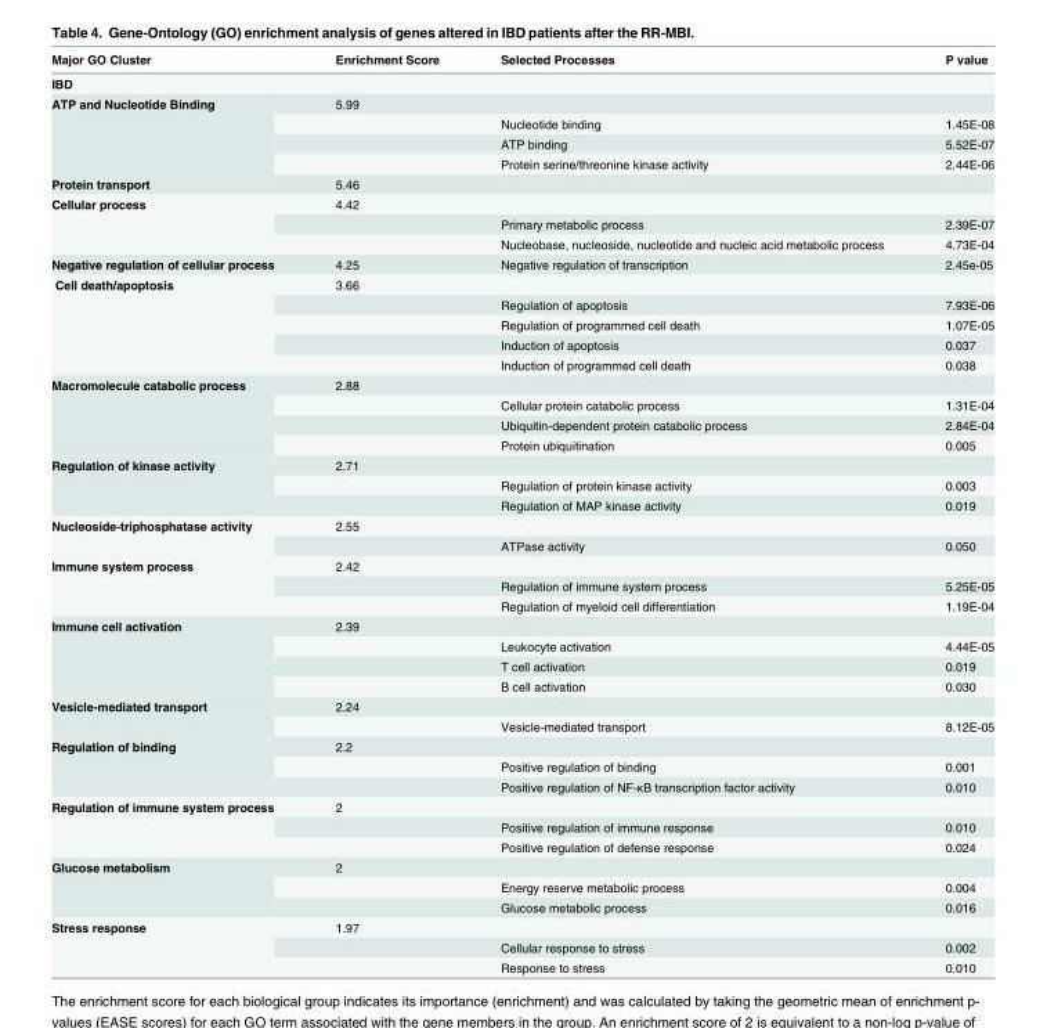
<table><thead><tr><td>Major GO Cluster</td><td>Enrichment Score</td><td>Selected Processes</td><td>P value</td></tr></thead><tbody><tr><td colspan="4">IBD</td></tr><tr><td rowspan="4">ATP and Nucleotide Binding</td><td>5.99</td><td></td><td></td></tr><tr><td></td><td>Nucleotide binding</td><td>1.45E-08</td></tr><tr><td></td><td>ATP binding</td><td>5.52E-07</td></tr><tr><td></td><td>Protein serine/threonine kinase activity</td><td>2.44E-06</td></tr><tr><td>Protein transport</td><td>5.46</td><td></td><td></td></tr><tr><td rowspan="3">Cellular process</td><td>4.42</td><td></td><td></td></tr><tr><td></td><td>Primary metabolic process</td><td>2.39E-07</td></tr><tr><td></td><td>Nucleobase, nucleoside, nucleotide and nucleic acid metabolic process</td><td>4.73E-04</td></tr><tr><td>Negative regulation of cellular process</td><td>4.25</td><td>Negative regulation of transcription</td><td>2.45e-05</td></tr><tr><td rowspan="5">Cell death/apoptosis</td><td>3.66</td><td></td><td></td></tr><tr><td></td><td>Regulation of apoptosis</td><td>7.93E-06</td></tr><tr><td></td><td>Regulation of programmed cell death</td><td>1.07E-05</td></tr><tr><td></td><td>Induction of apoptosis</td><td>0.037</td></tr><tr><td></td><td>Induction of programmed cell death</td><td>0.038</td></tr><tr><td rowspan="4">Macromolecule catabolic process</td><td>2.88</td><td></td><td></td></tr><tr><td></td><td>Cellular protein catabolic process</td><td>1.31E-04</td></tr><tr><td></td><td>Ubiquitin-dependent protein catabolic process</td><td>2.84E-04</td></tr><tr><td></td><td>Protein ubiquitination</td><td>0.005</td></tr><tr><td rowspan="3">Regulation of kinase activity</td><td>2.71</td><td></td><td></td></tr><tr><td></td><td>Regulation of protein kinase activity</td><td>0.003</td></tr><tr><td></td><td>Regulation of MAP kinase activity</td><td>0.019</td></tr><tr><td rowspan="2">Nucleoside-triphosphatase activity</td><td>2.55</td><td></td><td></td></tr><tr><td></td><td>ATPase activity</td><td>0.050</td></tr><tr><td rowspan="3">Immune system process</td><td>2.42</td><td></td><td></td></tr><tr><td></td><td>Regulation of immune system process</td><td>5.25E-05</td></tr><tr><td></td><td>Regulation of myeloid cell differentiation</td><td>1.19E-04</td></tr><tr><td rowspan="4">Immune cell activation</td><td>2.39</td><td></td><td></td></tr><tr><td></td><td>Leukocyte activation</td><td>4.44E-05</td></tr><tr><td></td><td>T cell activation</td><td>0.019</td></tr><tr><td></td><td>B cell activation</td><td>0.030</td></tr><tr><td rowspan="2">Vesicle-mediated transport</td><td>2.24</td><td></td><td></td></tr><tr><td></td><td>Vesicle-mediated transport</td><td>8.12E-05</td></tr><tr><td rowspan="3">Regulation of binding</td><td>2.2</td><td></td><td></td></tr><tr><td></td><td>Positive regulation of binding</td><td>0.001</td></tr><tr><td></td><td>Positive regulation of NF-κB transcription factor activity</td><td>0.010</td></tr><tr><td rowspan="3">Regulation of immune system process</td><td>2</td><td></td><td></td></tr><tr><td></td><td>Positive regulation of immune response</td><td>0.010</td></tr><tr><td></td><td>Positive regulation of defense response</td><td>0.024</td></tr><tr><td rowspan="3">Glucose metabolism</td><td>2</td><td></td><td></td></tr><tr><td></td><td>Energy reserve metabolic process</td><td>0.004</td></tr><tr><td></td><td>Glucose metabolic process</td><td>0.016</td></tr><tr><td rowspan="3">Stress response</td><td>1.97</td><td></td><td></td></tr><tr><td></td><td>Cellular response to stress</td><td>0.002</td></tr><tr><td></td><td>Response to stress</td><td>0.010</td></tr></tbody></table>